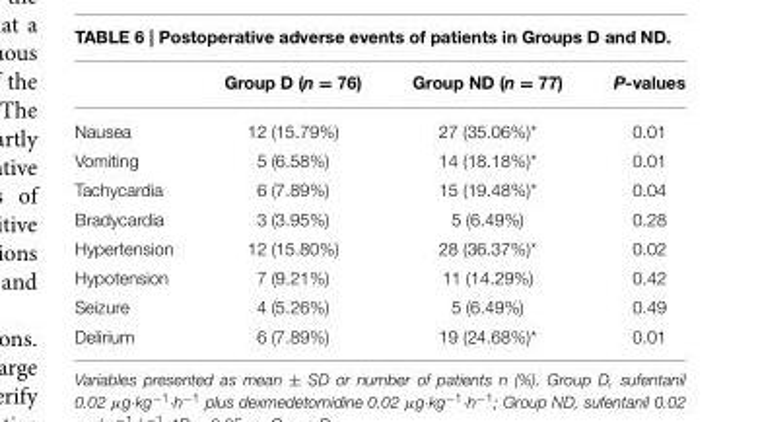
<table><thead><tr><td></td><td>Group D (n = 76)</td><td>Group ND (n = 77)</td><td>P-values</td></tr></thead><tbody><tr><td>Nausea</td><td>12 (15.79%)</td><td>27 (35.06%)*</td><td>0.01</td></tr><tr><td>Vomiting</td><td>5 (6.58%)</td><td>14 (18.18%)*</td><td>0.01</td></tr><tr><td>Tachycardia</td><td>6 (7.89%)</td><td>15 (19.48%)*</td><td>0.04</td></tr><tr><td>Bradycardia</td><td>3 (3.95%)</td><td>5 (6.49%)</td><td>0.28</td></tr><tr><td>Hypertension</td><td>12 (15.80%)</td><td>28 (36.37%)*</td><td>0.02</td></tr><tr><td>Hypotension</td><td>7 (9.21%)</td><td>11 (14.29%)</td><td>0.42</td></tr><tr><td>Seizure</td><td>4 (5.26%)</td><td>5 (6.49%)</td><td>0.49</td></tr><tr><td>Delirium</td><td>6 (7.89%)</td><td>19 (24.68%)*</td><td>0.01</td></tr></tbody></table>